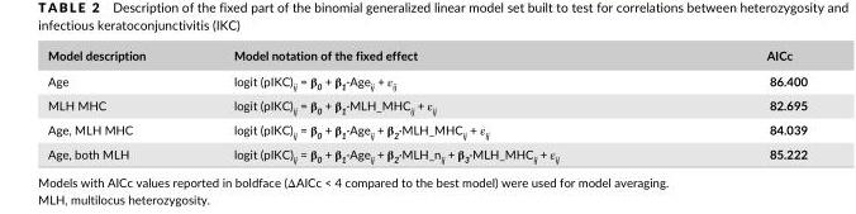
<table><thead><tr><td>Model description</td><td>Model notation of the fixed effect</td><td>AICc</td></tr></thead><tbody><tr><td>Age</td><td>logit (pIKC)<sub>ij</sub> = β<sub>0</sub> + β<sub>1</sub>·Age<sub>ij</sub> + ε<sub>ij</sub></td><td>86.400</td></tr><tr><td>MLH MHC</td><td>logit (pIKC)<sub>ij</sub> = β<sub>0</sub> + β<sub>1</sub>·MLH_MHC<sub>ij</sub> + ε<sub>ij</sub></td><td>82.695</td></tr><tr><td>Age, MLH MHC</td><td>logit (pIKC)ij = β0 + β1·Ageij + β2·MLH_MHCij + εij</td><td>84.039</td></tr><tr><td>Age, both MLH</td><td>logit (pIKC)ij = β0 + β1·Ageij + β2·MLH_nij + β3·MLH_MHCij + εij</td><td>85.222</td></tr></tbody></table>